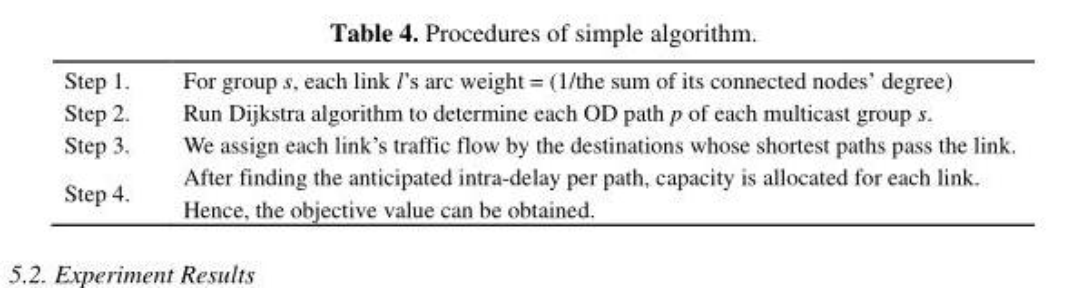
<table><tbody><tr><td>Step 1.</td><td>For group s, each link l’s arc weight = (1/the sum of its connected nodes’ degree)</td></tr><tr><td>Step 2.</td><td>Run Dijkstra algorithm to determine each OD path p of each multicast group s.</td></tr><tr><td>Step 3.</td><td>We assign each link’s traffic flow by the destinations whose shortest paths pass the link.</td></tr><tr><td>Step 4.</td><td>After finding the anticipated intra-delay per path, capacity is allocated for each link. Hence, the objective value can be obtained.</td></tr></tbody></table>